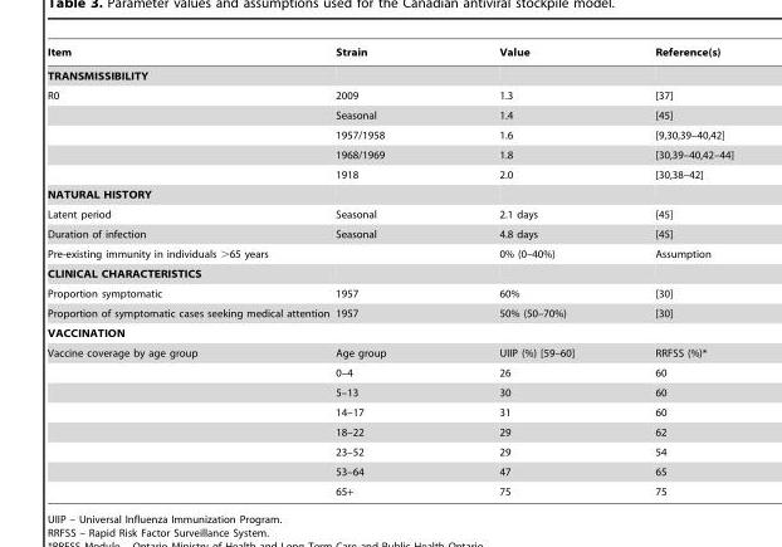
<table><thead><tr><td>Item</td><td>Strain</td><td>Value</td><td>Reference(s)</td></tr></thead><tbody><tr><td colspan="4">TRANSMISSIBILITY</td></tr><tr><td rowspan="5">R0</td><td>2009</td><td>1.3</td><td>[37]</td></tr><tr><td>Seasonal</td><td>1.4</td><td>[45]</td></tr><tr><td>1957/1958</td><td>1.6</td><td>[9,30,39–40,42]</td></tr><tr><td>1968/1969</td><td>1.8</td><td>[30,39–40,42–44]</td></tr><tr><td>1918</td><td>2.0</td><td>[30,38–42]</td></tr><tr><td colspan="4">NATURAL HISTORY</td></tr><tr><td>Latent period</td><td>Seasonal</td><td>2.1 days</td><td>[45]</td></tr><tr><td>Duration of infection</td><td>Seasonal</td><td>4.8 days</td><td>[45]</td></tr><tr><td>Pre-existing immunity in individuals &gt;65 years</td><td></td><td>0% (0–40%)</td><td>Assumption</td></tr><tr><td colspan="4">CLINICAL CHARACTERISTICS</td></tr><tr><td>Proportion symptomatic</td><td>1957</td><td>60%</td><td>[30]</td></tr><tr><td>Proportion of symptomatic cases seeking medical attention</td><td>1957</td><td>50% (50–70%)</td><td>[30]</td></tr><tr><td colspan="4">VACCINATION</td></tr><tr><td rowspan="8">Vaccine coverage by age group</td><td>Age group</td><td>UIIP (%) [59–60]</td><td>RRFSS (%)*</td></tr><tr><td>0–4</td><td>26</td><td>60</td></tr><tr><td>5–13</td><td>30</td><td>60</td></tr><tr><td>14–17</td><td>31</td><td>60</td></tr><tr><td>18–22</td><td>29</td><td>62</td></tr><tr><td>23–52</td><td>29</td><td>54</td></tr><tr><td>53–64</td><td>47</td><td>65</td></tr><tr><td>65+</td><td>75</td><td>75</td></tr></tbody></table>